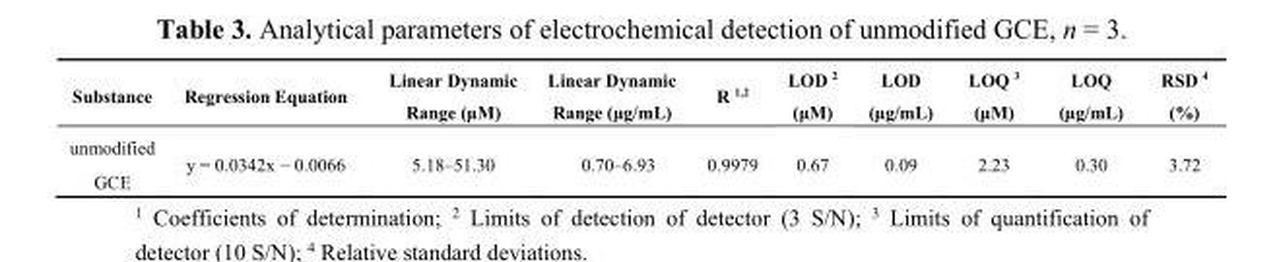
<table><thead><tr><td>Substance</td><td>Regression Equation</td><td>Linear Dynamic Range (μM)</td><td>Linear Dynamic Range (μg/mL)</td><td>R <sup>1,2</sup></td><td>LOD <sup>2</sup> (μM)</td><td>LOD (μg/mL)</td><td>LOQ <sup>3</sup> (μM)</td><td>LOQ (μg/mL)</td><td>RSD <sup>4</sup> (%)</td></tr></thead><tbody><tr><td>unmodified GCE</td><td>y = 0.0342x − 0.0066</td><td>5.18–51.30</td><td>0.70–6.93</td><td>0.9979</td><td>0.67</td><td>0.09</td><td>2.23</td><td>0.30</td><td>3.72</td></tr></tbody></table>